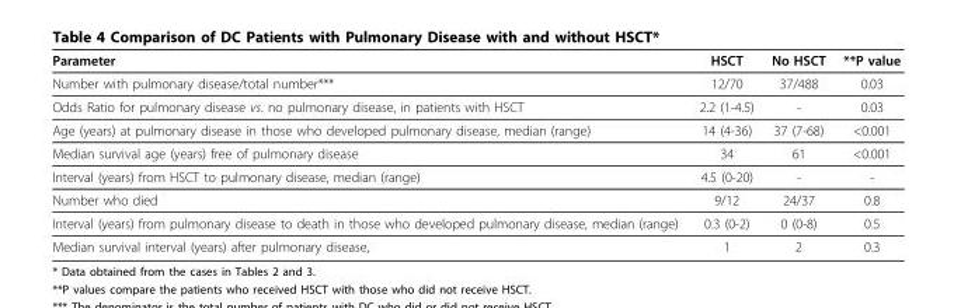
<table><thead><tr><td>Parameter</td><td>HSCT</td><td>No HSCT</td><td>**P value</td></tr></thead><tbody><tr><td>Number with pulmonary disease/total number***</td><td>12/70</td><td>37/488</td><td>0.03</td></tr><tr><td>Odds Ratio for pulmonary disease vs. no pulmonary disease, in patients with HSCT</td><td>2.2 (1-4.5)</td><td>-</td><td>0.03</td></tr><tr><td>Age (years) at pulmonary disease in those who developed pulmonary disease, median (range)</td><td>14 (4-36)</td><td>37 (7-68)</td><td>&lt;0.001</td></tr><tr><td>Median survival age (years) free of pulmonary disease</td><td>34</td><td>61</td><td>&lt;0.001</td></tr><tr><td>Interval (years) from HSCT to pulmonary disease, median (range)</td><td>4.5 (0-20)</td><td>-</td><td>-</td></tr><tr><td>Number who died</td><td>9/12</td><td>24/37</td><td>0.8</td></tr><tr><td>Interval (years) from pulmonary disease to death in those who developed pulmonary disease, median (range)</td><td>0.3 (0-2)</td><td>0 (0-8)</td><td>0.5</td></tr><tr><td>Median survival interval (years) after pulmonary disease,</td><td>1</td><td>2</td><td>0.3</td></tr></tbody></table>